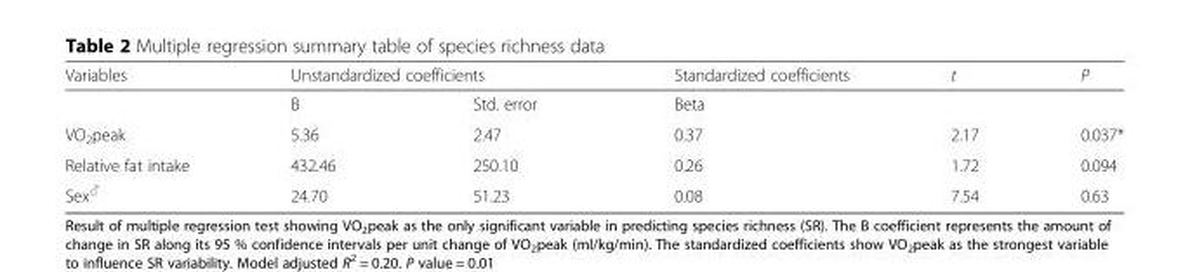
<table><thead><tr><td rowspan="2">Variables</td><td colspan="2">Unstandardized coefficients</td><td rowspan="2">Standardized coefficients Beta</td><td rowspan="2">t</td><td rowspan="2">P</td></tr><tr><td>B</td><td>Std. error</td></tr></thead><tbody><tr><td>VO<sub>2</sub>peak</td><td>5.36</td><td>2.47</td><td>0.37</td><td>2.17</td><td>0.037*</td></tr><tr><td>Relative fat intake</td><td>432.46</td><td>250.10</td><td>0.26</td><td>1.72</td><td>0.094</td></tr><tr><td>Sex<sup>♂</sup></td><td>24.70</td><td>51.23</td><td>0.08</td><td>7.54</td><td>0.63</td></tr></tbody></table>